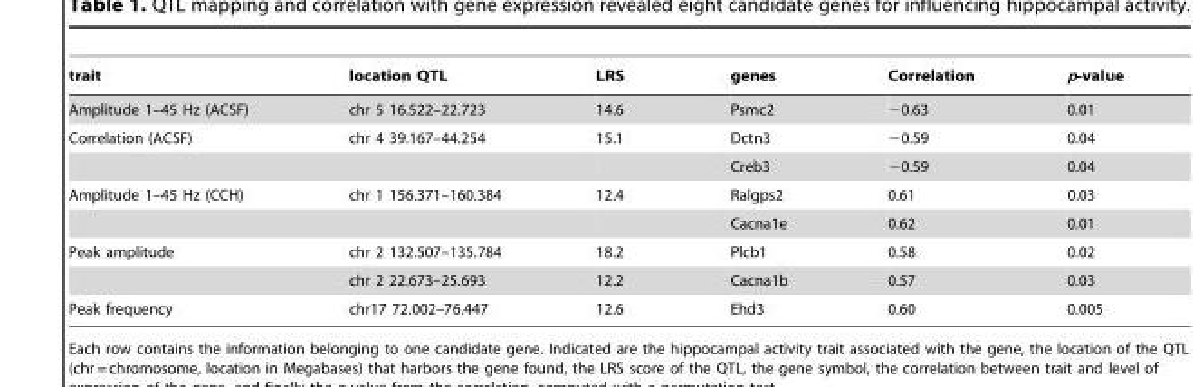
<table><thead><tr><td>trait</td><td>location QTL</td><td>LRS</td><td>genes</td><td>Correlation</td><td>p-value</td></tr></thead><tbody><tr><td>Amplitude 1–45 Hz (ACSF)</td><td>chr 5 16.522–22.723</td><td>14.6</td><td>Psmc2</td><td>−0.63</td><td>0.01</td></tr><tr><td rowspan="2">Correlation (ACSF)</td><td>chr 4 39.167–44.254</td><td>15.1</td><td>Dctn3</td><td>−0.59</td><td>0.04</td></tr><tr><td></td><td></td><td>Creb3</td><td>−0.59</td><td>0.04</td></tr><tr><td rowspan="2">Amplitude 1–45 Hz (CCH)</td><td>chr 1 156.371–160.384</td><td>12.4</td><td>Ralgps2</td><td>0.61</td><td>0.03</td></tr><tr><td></td><td></td><td>Cacna1e</td><td>0.62</td><td>0.01</td></tr><tr><td rowspan="2">Peak amplitude</td><td>chr 2 132.507–135.784</td><td>18.2</td><td>Plcb1</td><td>0.58</td><td>0.02</td></tr><tr><td>chr 2 22.673–25.693</td><td>12.2</td><td>Cacna1b</td><td>0.57</td><td>0.03</td></tr><tr><td>Peak frequency</td><td>chr17 72.002–76.447</td><td>12.6</td><td>Ehd3</td><td>0.60</td><td>0.005</td></tr></tbody></table>